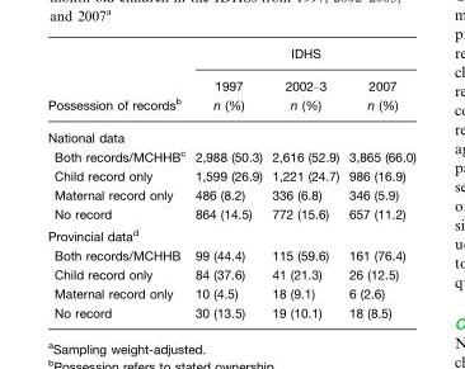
<table><thead><tr><td rowspan="2">Possession of records<sup>b</sup></td><td colspan="3">IDHS</td></tr><tr><td>1997 n (%)</td><td>2002–3 n (%)</td><td>2007 n (%)</td></tr></thead><tbody><tr><td colspan="4">National data</td></tr><tr><td>Both records/MCHHB<sup>c</sup></td><td>2,988 (50.3)</td><td>2,616 (52.9)</td><td>3,865 (66.0)</td></tr><tr><td>Child record only</td><td>1,599 (26.9)</td><td>1,221 (24.7)</td><td>986 (16.9)</td></tr><tr><td>Maternal record only</td><td>486 (8.2)</td><td>336 (6.8)</td><td>346 (5.9)</td></tr><tr><td>No record</td><td>864 (14.5)</td><td>772 (15.6)</td><td>657 (11.2)</td></tr><tr><td colspan="4">Provincial data<sup>d</sup></td></tr><tr><td>Both records/MCHHB</td><td>99 (44.4)</td><td>115 (59.6)</td><td>161 (76.4)</td></tr><tr><td>Child record only</td><td>84 (37.6)</td><td>41 (21.3)</td><td>26 (12.5)</td></tr><tr><td>Maternal record only</td><td>10 (4.5)</td><td>18 (9.1)</td><td>6 (2.6)</td></tr><tr><td>No record</td><td>30 (13.5)</td><td>19 (10.1)</td><td>18 (8.5)</td></tr></tbody></table>